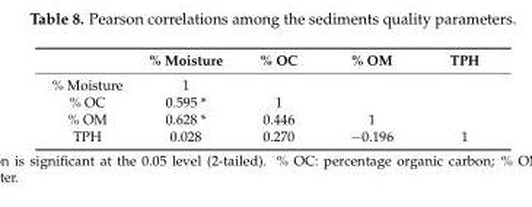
<table><thead><tr><td></td><td>% Moisture</td><td>% OC</td><td>% OM</td><td>TPH</td></tr></thead><tbody><tr><td>% Moisture</td><td>1</td><td></td><td></td><td></td></tr><tr><td>% OC</td><td>0.595 *</td><td>1</td><td></td><td></td></tr><tr><td>% OM</td><td>0.628 *</td><td>0.446</td><td>1</td><td></td></tr><tr><td>TPH</td><td>0.028</td><td>0.270</td><td>−0.196</td><td>1</td></tr></tbody></table>